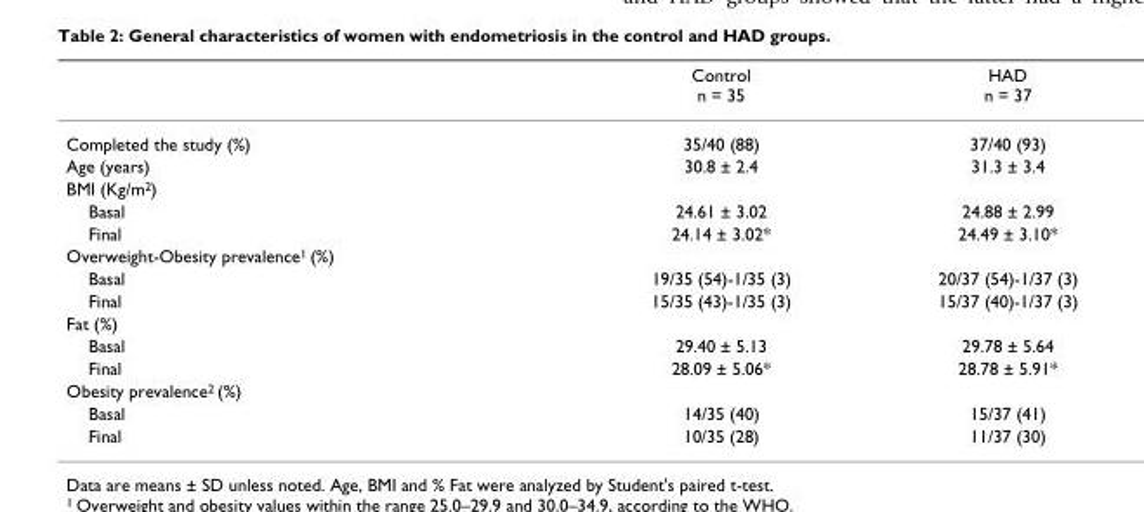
<table><thead><tr><td></td><td>Control n = 35</td><td>HAD n = 37</td></tr></thead><tbody><tr><td>Completed the study (%)</td><td>35/40 (88)</td><td>37/40 (93)</td></tr><tr><td>Age (years)</td><td>30.8 ± 2.4</td><td>31.3 ± 3.4</td></tr><tr><td colspan="3">BMI (Kg/m<sup>2</sup>)</td></tr><tr><td>Basal</td><td>24.61 ± 3.02</td><td>24.88 ± 2.99</td></tr><tr><td>Final</td><td>24.14 ± 3.02*</td><td>24.49 ± 3.10*</td></tr><tr><td colspan="3">Overweight-Obesity prevalence<sup>1</sup> (%)</td></tr><tr><td>Basal</td><td>19/35 (54)-1/35 (3)</td><td>20/37 (54)-1/37 (3)</td></tr><tr><td>Final</td><td>15/35 (43)-1/35 (3)</td><td>15/37 (40)-1/37 (3)</td></tr><tr><td colspan="3">Fat (%)</td></tr><tr><td>Basal</td><td>29.40 ± 5.13</td><td>29.78 ± 5.64</td></tr><tr><td>Final</td><td>28.09 ± 5.06*</td><td>28.78 ± 5.91*</td></tr><tr><td colspan="3">Obesity prevalence<sup>2</sup> (%)</td></tr><tr><td>Basal</td><td>14/35 (40)</td><td>15/37 (41)</td></tr><tr><td>Final</td><td>10/35 (28)</td><td>11/37 (30)</td></tr></tbody></table>